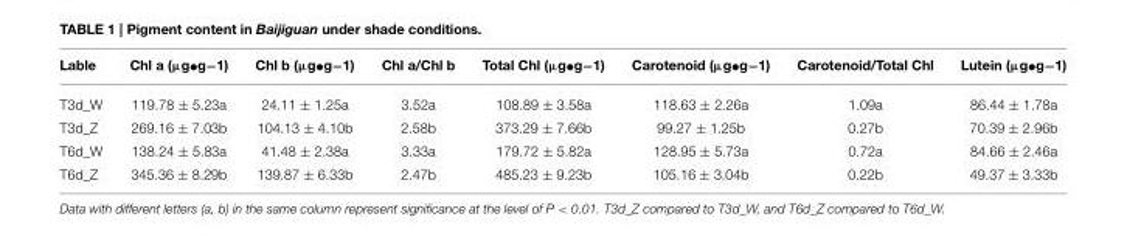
<table><thead><tr><td>Lable</td><td>Chl a (µg•g−1)</td><td>Chl b (µg•g−1)</td><td>Chl a/Chl b</td><td>Total Chl (µg•g−1)</td><td>Carotenoid (µg•g−1)</td><td>Carotenoid/Total Chl</td><td>Lutein (µg•g−1)</td></tr></thead><tbody><tr><td>T3d_W</td><td>119.78 ± 5.23a</td><td>24.11 ± 1.25a</td><td>3.52a</td><td>108.89 ± 3.58a</td><td>118.63 ± 2.26a</td><td>1.09a</td><td>86.44 ± 1.78a</td></tr><tr><td>T3d_Z</td><td>269.16 ± 7.03b</td><td>104.13 ± 4.10b</td><td>2.58b</td><td>373.29 ± 7.66b</td><td>99.27 ± 1.25b</td><td>0.27b</td><td>70.39 ± 2.96b</td></tr><tr><td>T6d_W</td><td>138.24 ± 5.83a</td><td>41.48 ± 2.38a</td><td>3.33a</td><td>179.72 ± 5.82a</td><td>128.95 ± 5.73a</td><td>0.72a</td><td>84.66 ± 2.46a</td></tr><tr><td>T6d_Z</td><td>345.36 ± 8.29b</td><td>139.87 ± 6.33b</td><td>2.47b</td><td>485.23 ± 9.23b</td><td>105.16 ± 3.04b</td><td>0.22b</td><td>49.37 ± 3.33b</td></tr></tbody></table>